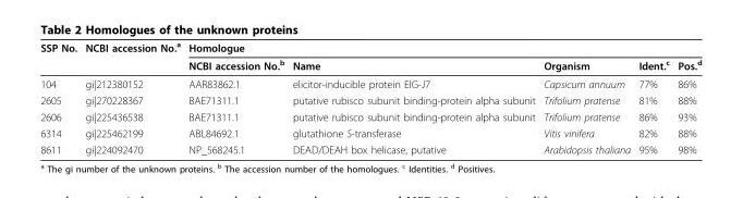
<table><thead><tr><td rowspan="2">SSP No.</td><td rowspan="2">NCBI accession No.<sup>a</sup></td><td colspan="5">Homologue</td></tr><tr><td>NCBI accession No.<sup>b</sup></td><td>Name</td><td>Organism</td><td>Ident.<sup>c</sup></td><td>Pos.<sup>d</sup></td></tr></thead><tbody><tr><td>104</td><td>gi|212380152</td><td>AAR83862.1</td><td>elicitor-inducible protein EIG-J7</td><td>Capsicum annuum</td><td>77%</td><td>86%</td></tr><tr><td>2605</td><td>gi|270228367</td><td>BAE71311.1</td><td>putative rubisco subunit binding-protein alpha subunit</td><td>Trifolium pratense</td><td>81%</td><td>88%</td></tr><tr><td>2606</td><td>gi|225436538</td><td>BAE71311.1</td><td>putative rubisco subunit binding-protein alpha subunit</td><td>Trifolium pratense</td><td>86%</td><td>93%</td></tr><tr><td>6314</td><td>gi|225462199</td><td>ABL84692.1</td><td>glutathione S-transferase</td><td>Vitis vinifera</td><td>82%</td><td>88%</td></tr><tr><td>8611</td><td>gi|224092470</td><td>NP_568245.1</td><td>DEAD/DEAH box helicase, putative</td><td>Arabidopsis thaliana</td><td>95%</td><td>98%</td></tr></tbody></table>